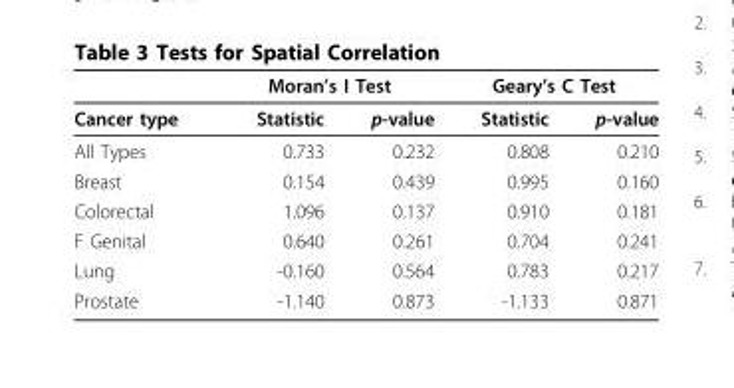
<table><thead><tr><td rowspan="2">Cancer type</td><td colspan="2">Moran’s I Test</td><td colspan="2">Geary’s C Test</td></tr><tr><td>Statistic</td><td>p-value</td><td>Statistic</td><td>p-value</td></tr></thead><tbody><tr><td>All Types</td><td>0.733</td><td>0.232</td><td>0.808</td><td>0.210</td></tr><tr><td>Breast</td><td>0.154</td><td>0.439</td><td>0.995</td><td>0.160</td></tr><tr><td>Colorectal</td><td>1.096</td><td>0.137</td><td>0.910</td><td>0.181</td></tr><tr><td>F Genital</td><td>0.640</td><td>0.261</td><td>0.704</td><td>0.241</td></tr><tr><td>Lung</td><td>-0.160</td><td>0.564</td><td>0.783</td><td>0.217</td></tr><tr><td>Prostate</td><td>-1.140</td><td>0.873</td><td>-1.133</td><td>0.871</td></tr></tbody></table>